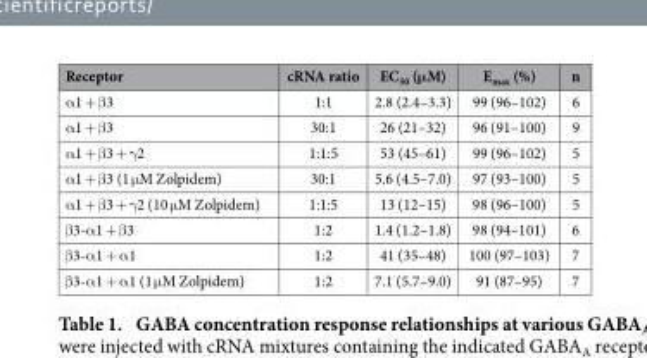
<table><thead><tr><td>Receptor</td><td>cRNA ratio</td><td>EC<sub>50</sub> (μM)</td><td>E<sub>max</sub> (%)</td><td>n</td></tr></thead><tbody><tr><td>α1 + β3</td><td>1:1</td><td>2.8 (2.4–3.3)</td><td>99 (96–102)</td><td>6</td></tr><tr><td>α1 + β3</td><td>30:1</td><td>26 (21–32)</td><td>96 (91–100)</td><td>9</td></tr><tr><td>α1 + β3 + γ2</td><td>1:1:5</td><td>53 (45–61)</td><td>99 (96–102)</td><td>5</td></tr><tr><td>α1 + β3 (1 μM Zolpidem)</td><td>30:1</td><td>5.6 (4.5–7.0)</td><td>97 (93–100)</td><td>5</td></tr><tr><td>α1 + β3 + γ2 (10 μM Zolpidem)</td><td>1:1:5</td><td>13 (12–15)</td><td>98 (96–100)</td><td>5</td></tr><tr><td>β3-α1 + β3</td><td>1:2</td><td>1.4 (1.2–1.8)</td><td>98 (94–101)</td><td>6</td></tr><tr><td>β3-α1 + α1</td><td>1:2</td><td>41 (35–48)</td><td>100 (97–103)</td><td>7</td></tr><tr><td>β3-α1 + α1 (1 μM Zolpidem)</td><td>1:2</td><td>7.1 (5.7–9.0)</td><td>91 (87–95)</td><td>7</td></tr></tbody></table>